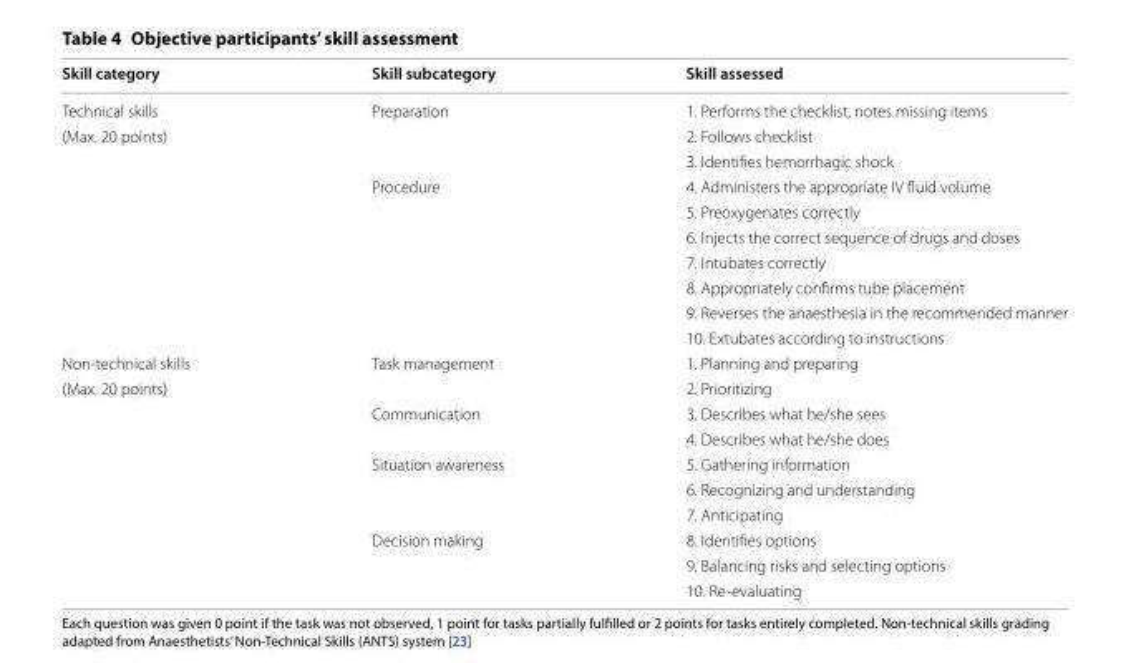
<table><thead><tr><td>Skill category</td><td>Skill subcategory</td><td>Skill assessed</td></tr></thead><tbody><tr><td>Technical skills</td><td>Preparation</td><td>1. Performs the checklist, notes missing items</td></tr><tr><td rowspan="9">(Max. 20 points)</td><td></td><td>2. Follows checklist</td></tr><tr><td></td><td>3. Identifies hemorrhagic shock</td></tr><tr><td>Procedure</td><td>4. Administers the appropriate IV fluid volume</td></tr><tr><td></td><td>5. Preoxygenates correctly</td></tr><tr><td></td><td>6. Injects the correct sequence of drugs and doses</td></tr><tr><td></td><td>7. Intubates correctly</td></tr><tr><td></td><td>8. Appropriately confirms tube placement</td></tr><tr><td></td><td>9. Reverses the anaesthesia in the recommended manner</td></tr><tr><td></td><td>10. Extubates according to instructions</td></tr><tr><td>Non-technical skills</td><td>Task management</td><td>1. Planning and preparing</td></tr><tr><td rowspan="9">(Max. 20 points)</td><td></td><td>2. Prioritizing</td></tr><tr><td>Communication</td><td>3. Describes what he/she sees</td></tr><tr><td></td><td>4. Describes what he/she does</td></tr><tr><td>Situation awareness</td><td>5. Gathering information</td></tr><tr><td></td><td>6. Recognizing and understanding</td></tr><tr><td></td><td>7. Anticipating</td></tr><tr><td>Decision making</td><td>8. Identifies options</td></tr><tr><td></td><td>9. Balancing risks and selecting options</td></tr><tr><td></td><td>10. Re-evaluating</td></tr></tbody></table>